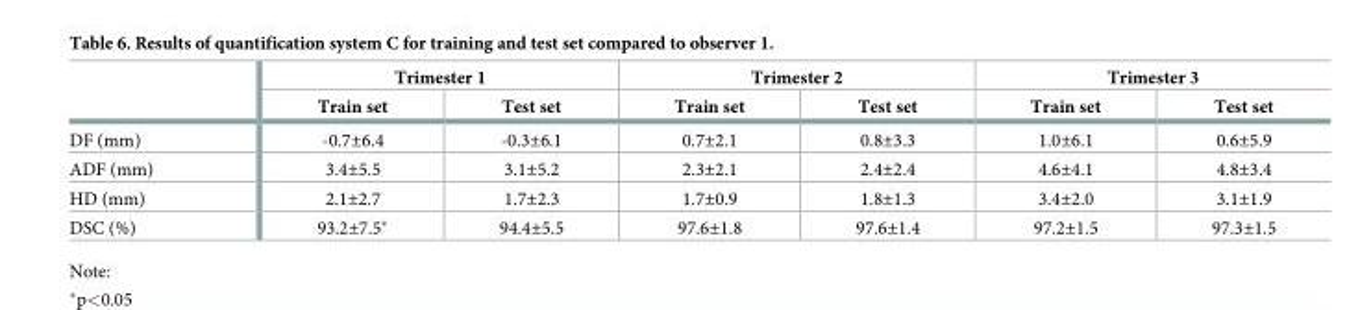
<table><thead><tr><td rowspan="2"></td><td colspan="2">Trimester 1</td><td colspan="2">Trimester 2</td><td colspan="2">Trimester 3</td></tr><tr><td>Train set</td><td>Test set</td><td>Train set</td><td>Test set</td><td>Train set</td><td>Test set</td></tr></thead><tbody><tr><td>DF (mm)</td><td>-0.7±6.4</td><td>-0.3±6.1</td><td>0.7±2.1</td><td>0.8±3.3</td><td>1.0±6.1</td><td>0.6±5.9</td></tr><tr><td>ADF (mm)</td><td>3.4±5.5</td><td>3.1±5.2</td><td>2.3±2.1</td><td>2.4±2.4</td><td>4.6±4.1</td><td>4.8±3.4</td></tr><tr><td>HD (mm)</td><td>2.1±2.7</td><td>1.7±2.3</td><td>1.7±0.9</td><td>1.8±1.3</td><td>3.4±2.0</td><td>3.1±1.9</td></tr><tr><td>DSC (%)</td><td>93.2±7.5*</td><td>94.4±5.5</td><td>97.6±1.8</td><td>97.6±1.4</td><td>97.2±1.5</td><td>97.3±1.5</td></tr></tbody></table>